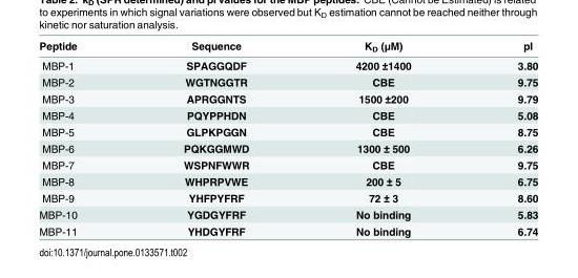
<table><thead><tr><td>Peptide</td><td>Sequence</td><td>K<sub>D</sub> (μM)</td><td>pI</td></tr></thead><tbody><tr><td>MBP-1</td><td>SPAGGQDF</td><td>4200 ±1400</td><td>3.80</td></tr><tr><td>MBP-2</td><td>WGTNGGTR</td><td>CBE</td><td>9.75</td></tr><tr><td>MBP-3</td><td>APRGGNTS</td><td>1500 ±200</td><td>9.79</td></tr><tr><td>MBP-4</td><td>PQYPPHDN</td><td>CBE</td><td>5.08</td></tr><tr><td>MBP-5</td><td>GLPKPGGN</td><td>CBE</td><td>8.75</td></tr><tr><td>MBP-6</td><td>PQKGGMWD</td><td>1300 ± 500</td><td>6.26</td></tr><tr><td>MBP-7</td><td>WSPNFWWR</td><td>CBE</td><td>9.75</td></tr><tr><td>MBP-8</td><td>WHPRPVWE</td><td>200 ± 5</td><td>6.75</td></tr><tr><td>MBP-9</td><td>YHFPYFRF</td><td>72 ± 3</td><td>8.60</td></tr><tr><td>MBP-10</td><td>YGDGYFRF</td><td>No binding</td><td>5.83</td></tr><tr><td>MBP-11</td><td>YHDGYFRF</td><td>No binding</td><td>6.74</td></tr></tbody></table>